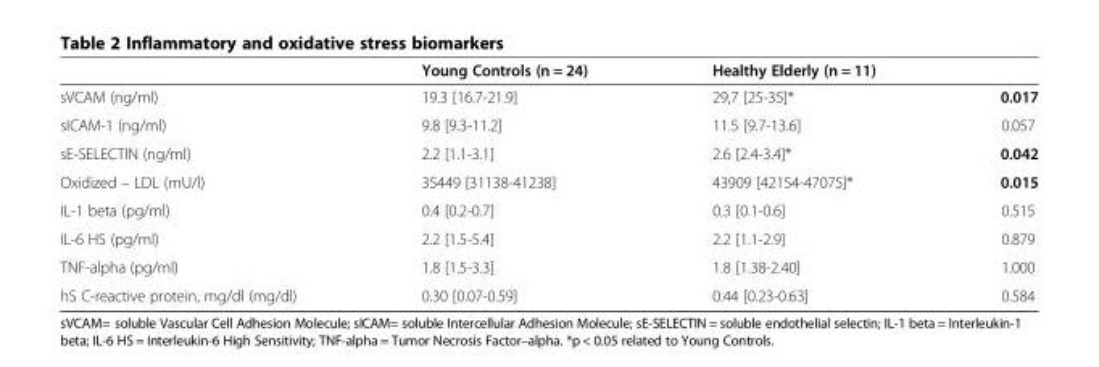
<table><thead><tr><td></td><td>Young Controls (n = 24)</td><td>Healthy Elderly (n = 11)</td><td></td></tr></thead><tbody><tr><td>sVCAM (ng/ml)</td><td>19.3 [16.7-21.9]</td><td>29,7 [25-35]*</td><td>0.017</td></tr><tr><td>sICAM-1 (ng/ml)</td><td>9.8 [9.3-11.2]</td><td>11.5 [9.7-13.6]</td><td>0.057</td></tr><tr><td>sE-SELECTIN (ng/ml)</td><td>2.2 [1.1-3.1]</td><td>2.6 [2.4-3.4]*</td><td>0.042</td></tr><tr><td>Oxidized – LDL (mU/l)</td><td>35449 [31138-41238]</td><td>43909 [42154-47075]*</td><td>0.015</td></tr><tr><td>IL-1 beta (pg/ml)</td><td>0.4 [0.2-0.7]</td><td>0.3 [0.1-0.6]</td><td>0.515</td></tr><tr><td>IL-6 HS (pg/ml)</td><td>2.2 [1.5-5.4]</td><td>2.2 [1.1-2.9]</td><td>0.879</td></tr><tr><td>TNF-alpha (pg/ml)</td><td>1.8 [1.5-3.3]</td><td>1.8 [1.38-2.40]</td><td>1.000</td></tr><tr><td>hS C-reactive protein, mg/dl (mg/dl)</td><td>0.30 [0.07-0.59]</td><td>0.44 [0.23-0.63]</td><td>0.584</td></tr></tbody></table>